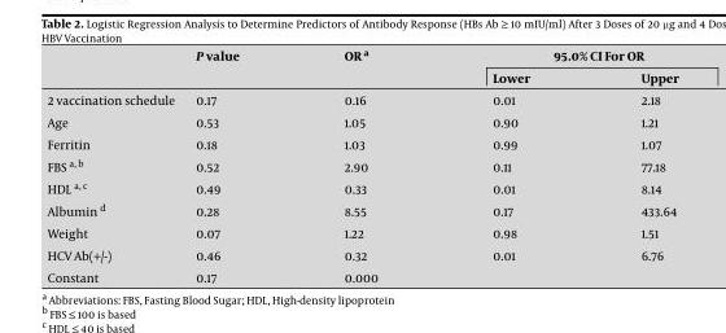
<table><thead><tr><td rowspan="2"></td><td rowspan="2">P value</td><td rowspan="2">OR a</td><td colspan="2">95.0% CI For OR</td></tr><tr><td>Lower</td><td>Upper</td></tr></thead><tbody><tr><td>2 vaccination schedule</td><td>0.17</td><td>0.16</td><td>0.01</td><td>2.18</td></tr><tr><td>Age</td><td>0.53</td><td>1.05</td><td>0.90</td><td>1.21</td></tr><tr><td>Ferritin</td><td>0.18</td><td>1.03</td><td>0.99</td><td>1.07</td></tr><tr><td>FBS a, b</td><td>0.52</td><td>2.90</td><td>0.11</td><td>77.18</td></tr><tr><td>HDL <sup>a</sup>, <sup>c</sup></td><td>0.49</td><td>0.33</td><td>0.01</td><td>8.14</td></tr><tr><td>Albumin <sup>d</sup></td><td>0.28</td><td>8.55</td><td>0.17</td><td>433.64</td></tr><tr><td>Weight</td><td>0.07</td><td>1.22</td><td>0.98</td><td>1.51</td></tr><tr><td>HCV Ab(+/-)</td><td>0.46</td><td>0.32</td><td>0.01</td><td>6.76</td></tr><tr><td>Constant</td><td>0.17</td><td>0.000</td><td></td><td></td></tr></tbody></table>